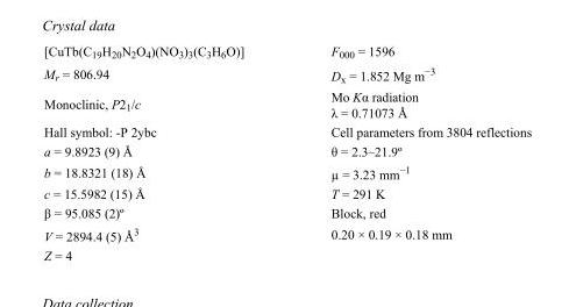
<table><tbody><tr><td>[CuTb(C<sub>19</sub>H<sub>20</sub>N<sub>2</sub>O<sub>4</sub>)(NO<sub>3</sub>)<sub>3</sub>(C<sub>3</sub>H<sub>6</sub>O)]</td><td>F000 = 1596</td></tr><tr><td>M<sub>r</sub> = 806.94</td><td>D<sub>x</sub> = 1.852 Mg m<sup>−3</sup></td></tr><tr><td>Monoclinic, P2<sub>1</sub>/c</td><td>Mo Kα radiation λ = 0.71073 Å</td></tr><tr><td>Hall symbol: -P 2ybc</td><td>Cell parameters from 3804 reflections</td></tr><tr><td>a = 9.8923 (9) Å</td><td>θ = 2.3–21.9º</td></tr><tr><td>b = 18.8321 (18) Å</td><td>µ = 3.23 mm<sup>−1</sup></td></tr><tr><td>c = 15.5982 (15) Å</td><td>T = 291 K</td></tr><tr><td>β = 95.085 (2)º</td><td>Block, red</td></tr><tr><td>V = 2894.4 (5) Å<sup>3</sup></td><td>0.20 × 0.19 × 0.18 mm</td></tr><tr><td>Z = 4</td><td></td></tr></tbody></table>